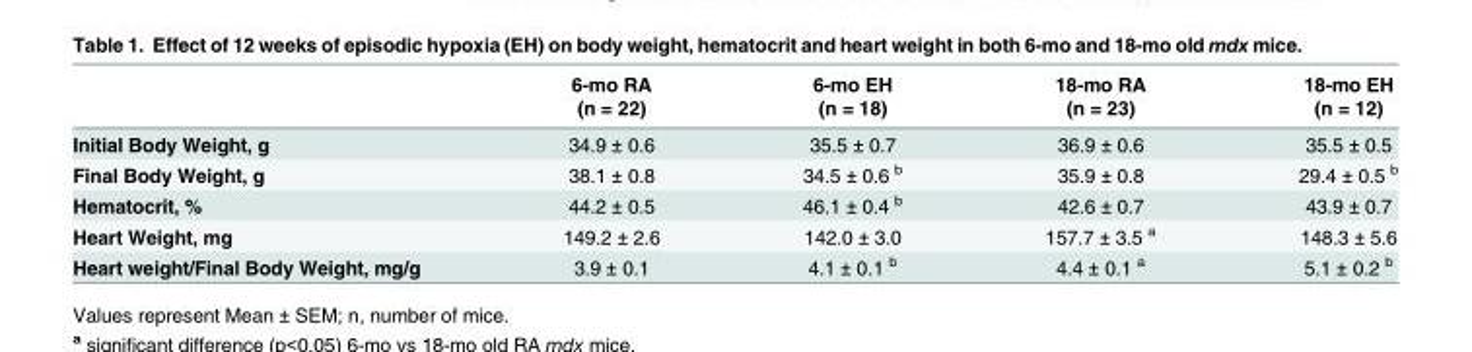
<table><thead><tr><td rowspan="2"></td><td rowspan="2">6-mo RA (n = 22)</td><td rowspan="2">6-mo EH (n = 18)</td><td rowspan="2">18-mo RA (n = 23)</td><td rowspan="2">18-mo EH (n = 12)</td></tr><tr></tr></thead><tbody><tr><td>Initial Body Weight, g</td><td>34.9 ± 0.6</td><td>35.5 ± 0.7</td><td>36.9 ± 0.6</td><td>35.5 ± 0.5</td></tr><tr><td>Final Body Weight, g</td><td>38.1 ± 0.8</td><td>34.5 ± 0.6 <sup>b</sup></td><td>35.9 ± 0.8</td><td>29.4 ± 0.5 <sup>b</sup></td></tr><tr><td>Hematocrit, %</td><td>44.2 ± 0.5</td><td>46.1 ± 0.4 <sup>b</sup></td><td>42.6 ± 0.7</td><td>43.9 ± 0.7</td></tr><tr><td>Heart Weight, mg</td><td>149.2 ± 2.6</td><td>142.0 ± 3.0</td><td>157.7 ± 3.5 <sup>a</sup></td><td>148.3 ± 5.6</td></tr><tr><td>Heart weight/Final Body Weight, mg/g</td><td>3.9 ± 0.1</td><td>4.1 ± 0.1 <sup>b</sup></td><td>4.4 ± 0.1 <sup>a</sup></td><td>5.1 ± 0.2 <sup>b</sup></td></tr></tbody></table>